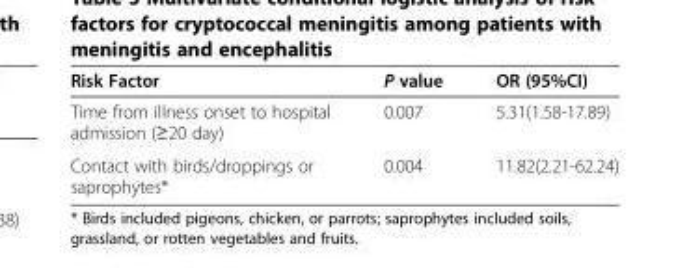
<table><thead><tr><td>Risk Factor</td><td>P value</td><td>OR (95%CI)</td></tr></thead><tbody><tr><td>Time from illness onset to hospital admission (≥20 day)</td><td>0.007</td><td>5.31(1.58-17.89)</td></tr><tr><td>Contact with birds/droppings or saprophytes*</td><td>0.004</td><td>11.82(2.21-62.24)</td></tr></tbody></table>